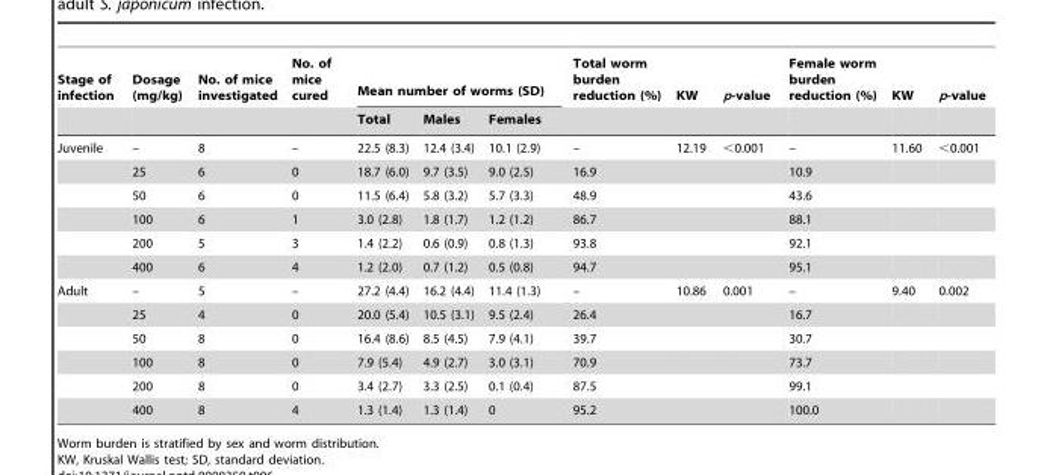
<table><thead><tr><td rowspan="2">Stage of infection</td><td rowspan="2">Dosage (mg/kg)</td><td rowspan="2">No. of mice investigated</td><td rowspan="2">No. of mice cured</td><td colspan="3">Mean number of worms (SD)</td><td rowspan="2">Total worm burden reduction (%)</td><td rowspan="2">KW</td><td rowspan="2">p-value</td><td rowspan="2">Female worm burden reduction (%)</td><td rowspan="2">KW</td><td rowspan="2">p-value</td></tr><tr><td>Total</td><td>Males</td><td>Females</td></tr></thead><tbody><tr><td rowspan="6">Juvenile</td><td>–</td><td>8</td><td>–</td><td>22.5 (8.3)</td><td>12.4 (3.4)</td><td>10.1 (2.9)</td><td>–</td><td>12.19</td><td>&lt;0.001</td><td>–</td><td>11.60</td><td>&lt;0.001</td></tr><tr><td>25</td><td>6</td><td>0</td><td>18.7 (6.0)</td><td>9.7 (3.5)</td><td>9.0 (2.5)</td><td>16.9</td><td></td><td></td><td>10.9</td><td></td><td></td></tr><tr><td>50</td><td>6</td><td>0</td><td>11.5 (6.4)</td><td>5.8 (3.2)</td><td>5.7 (3.3)</td><td>48.9</td><td></td><td></td><td>43.6</td><td></td><td></td></tr><tr><td>100</td><td>6</td><td>1</td><td>3.0 (2.8)</td><td>1.8 (1.7)</td><td>1.2 (1.2)</td><td>86.7</td><td></td><td></td><td>88.1</td><td></td><td></td></tr><tr><td>200</td><td>5</td><td>3</td><td>1.4 (2.2)</td><td>0.6 (0.9)</td><td>0.8 (1.3)</td><td>93.8</td><td></td><td></td><td>92.1</td><td></td><td></td></tr><tr><td>400</td><td>6</td><td>4</td><td>1.2 (2.0)</td><td>0.7 (1.2)</td><td>0.5 (0.8)</td><td>94.7</td><td></td><td></td><td>95.1</td><td></td><td></td></tr><tr><td rowspan="6">Adult</td><td>–</td><td>5</td><td>–</td><td>27.2 (4.4)</td><td>16.2 (4.4)</td><td>11.4 (1.3)</td><td>–</td><td>10.86</td><td>0.001</td><td>–</td><td>9.40</td><td>0.002</td></tr><tr><td>25</td><td>4</td><td>0</td><td>20.0 (5.4)</td><td>10.5 (3.1)</td><td>9.5 (2.4)</td><td>26.4</td><td></td><td></td><td>16.7</td><td></td><td></td></tr><tr><td>50</td><td>8</td><td>0</td><td>16.4 (8.6)</td><td>8.5 (4.5)</td><td>7.9 (4.1)</td><td>39.7</td><td></td><td></td><td>30.7</td><td></td><td></td></tr><tr><td>100</td><td>8</td><td>0</td><td>7.9 (5.4)</td><td>4.9 (2.7)</td><td>3.0 (3.1)</td><td>70.9</td><td></td><td></td><td>73.7</td><td></td><td></td></tr><tr><td>200</td><td>8</td><td>0</td><td>3.4 (2.7)</td><td>3.3 (2.5)</td><td>0.1 (0.4)</td><td>87.5</td><td></td><td></td><td>99.1</td><td></td><td></td></tr><tr><td>400</td><td>8</td><td>4</td><td>1.3 (1.4)</td><td>1.3 (1.4)</td><td>0</td><td>95.2</td><td></td><td></td><td>100.0</td><td></td><td></td></tr></tbody></table>